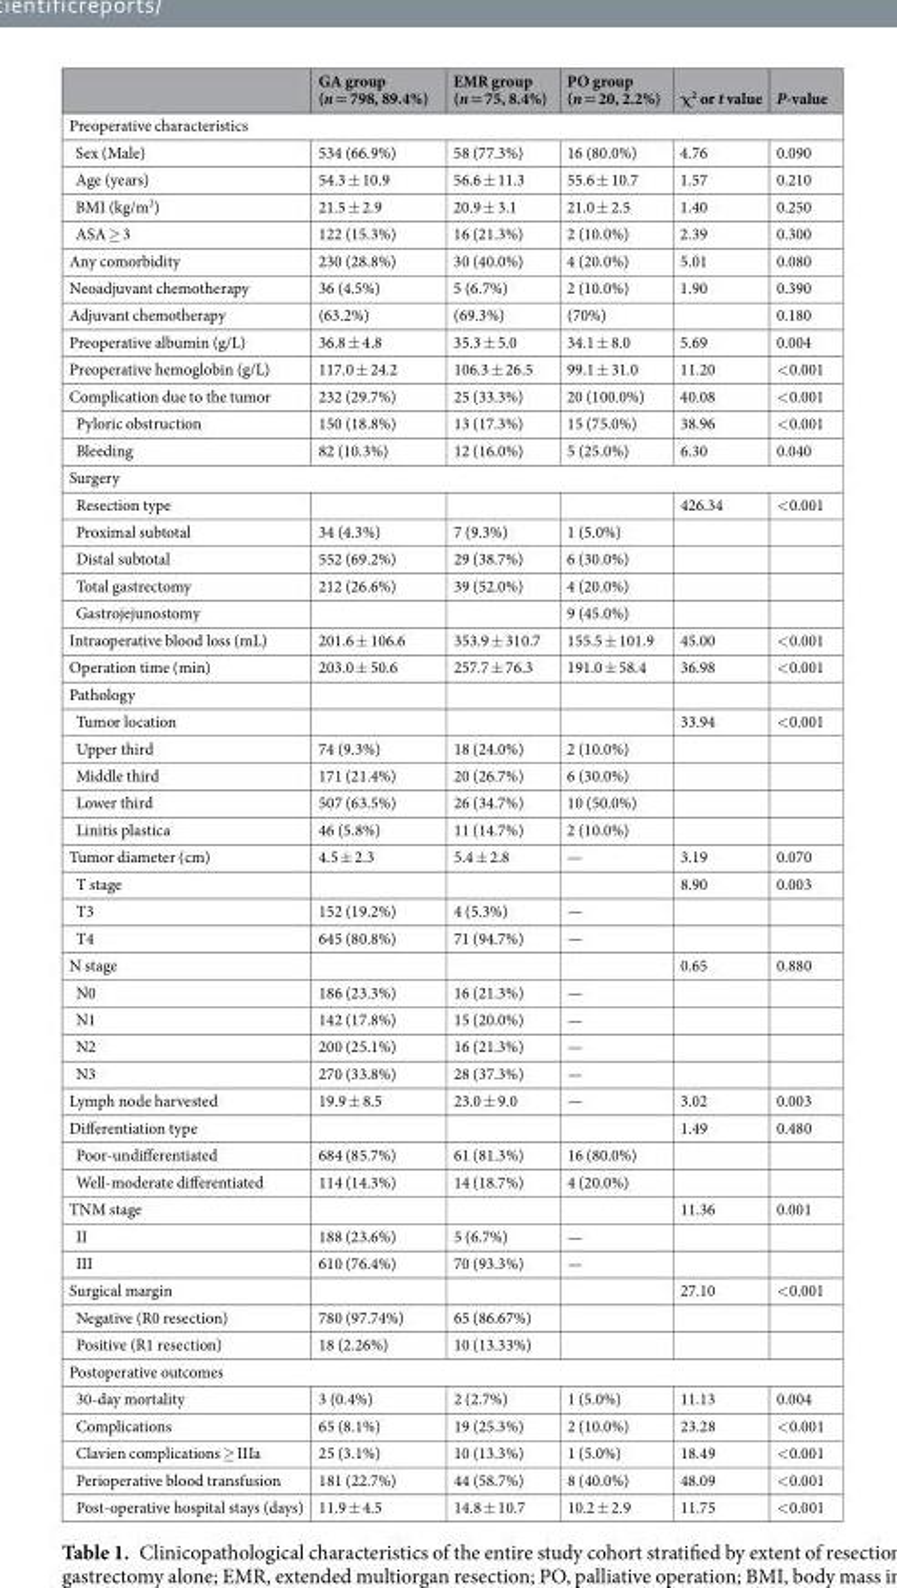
<table><thead><tr><td></td><td>GA group (n = 798, 89.4%)</td><td>EMR group (n = 75, 8.4%)</td><td>PO group (n = 20, 2.2%)</td><td>χ<sup>2</sup> or t value</td><td>P-value</td></tr></thead><tbody><tr><td colspan="6">Preoperative characteristics</td></tr><tr><td>Sex (Male)</td><td>534 (66.9%)</td><td>58 (77.3%)</td><td>16 (80.0%)</td><td>4.76</td><td>0.090</td></tr><tr><td>Age (years)</td><td>54.3 ± 10.9</td><td>56.6 ± 11.3</td><td>55.6 ± 10.7</td><td>1.57</td><td>0.210</td></tr><tr><td>BMI (kg/m<sup>2</sup>)</td><td>21.5 ± 2.9</td><td>20.9 ± 3.1</td><td>21.0 ± 2.5</td><td>1.40</td><td>0.250</td></tr><tr><td>ASA ≥ 3</td><td>122 (15.3%)</td><td>16 (21.3%)</td><td>2 (10.0%)</td><td>2.39</td><td>0.300</td></tr><tr><td>Any comorbidity</td><td>230 (28.8%)</td><td>30 (40.0%)</td><td>4 (20.0%)</td><td>5.01</td><td>0.080</td></tr><tr><td>Neoadjuvant chemotherapy</td><td>36 (4.5%)</td><td>5 (6.7%)</td><td>2 (10.0%)</td><td>1.90</td><td>0.390</td></tr><tr><td>Adjuvant chemotherapy</td><td>(63.2%)</td><td>(69.3%)</td><td>(70%)</td><td></td><td>0.180</td></tr><tr><td>Preoperative albumin (g/L)</td><td>36.8 ± 4.8</td><td>35.3 ± 5.0</td><td>34.1 ± 8.0</td><td>5.69</td><td>0.004</td></tr><tr><td>Preoperative hemoglobin (g/L)</td><td>117.0 ± 24.2</td><td>106.3 ± 26.5</td><td>99.1 ± 31.0</td><td>11.20</td><td>&lt;0.001</td></tr><tr><td>Complication due to the tumor</td><td>232 (29.7%)</td><td>25 (33.3%)</td><td>20 (100.0%)</td><td>40.08</td><td>&lt;0.001</td></tr><tr><td>Pyloric obstruction</td><td>150 (18.8%)</td><td>13 (17.3%)</td><td>15 (75.0%)</td><td>38.96</td><td>&lt;0.001</td></tr><tr><td>Bleeding</td><td>82 (10.3%)</td><td>12 (16.0%)</td><td>5 (25.0%)</td><td>6.30</td><td>0.040</td></tr><tr><td colspan="6">Surgery</td></tr><tr><td>Resection type</td><td></td><td></td><td></td><td>426.34</td><td>&lt;0.001</td></tr><tr><td>Proximal subtotal</td><td>34 (4.3%)</td><td>7 (9.3%)</td><td>1 (5.0%)</td><td></td><td></td></tr><tr><td>Distal subtotal</td><td>552 (69.2%)</td><td>29 (38.7%)</td><td>6 (30.0%)</td><td></td><td></td></tr><tr><td>Total gastrectomy</td><td>212 (26.6%)</td><td>39 (52.0%)</td><td>4 (20.0%)</td><td></td><td></td></tr><tr><td>Gastrojejunostomy</td><td></td><td></td><td>9 (45.0%)</td><td></td><td></td></tr><tr><td>Intraoperative blood loss (mL)</td><td>201.6 ± 106.6</td><td>353.9 ± 310.7</td><td>155.5 ± 101.9</td><td>45.00</td><td>&lt;0.001</td></tr><tr><td>Operation time (min)</td><td>203.0 ± 50.6</td><td>257.7 ± 76.3</td><td>191.0 ± 58.4</td><td>36.98</td><td>&lt;0.001</td></tr><tr><td colspan="6">Pathology</td></tr><tr><td>Tumor location</td><td></td><td></td><td></td><td>33.94</td><td>&lt;0.001</td></tr><tr><td>Upper third</td><td>74 (9.3%)</td><td>18 (24.0%)</td><td>2 (10.0%)</td><td></td><td></td></tr><tr><td>Middle third</td><td>171 (21.4%)</td><td>20 (26.7%)</td><td>6 (30.0%)</td><td></td><td></td></tr><tr><td>Lower third</td><td>507 (63.5%)</td><td>26 (34.7%)</td><td>10 (50.0%)</td><td></td><td></td></tr><tr><td>Linitis plastica</td><td>46 (5.8%)</td><td>11 (14.7%)</td><td>2 (10.0%)</td><td></td><td></td></tr><tr><td>Tumor diameter (cm)</td><td>4.5 ± 2.3</td><td>5.4 ± 2.8</td><td>—</td><td>3.19</td><td>0.070</td></tr><tr><td>T stage</td><td></td><td></td><td></td><td>8.90</td><td>0.003</td></tr><tr><td>T3</td><td>152 (19.2%)</td><td>4 (5.3%)</td><td>—</td><td></td><td></td></tr><tr><td>T4</td><td>645 (80.8%)</td><td>71 (94.7%)</td><td>—</td><td></td><td></td></tr><tr><td>N stage</td><td></td><td></td><td></td><td>0.65</td><td>0.880</td></tr><tr><td>N0</td><td>186 (23.3%)</td><td>16 (21.3%)</td><td>—</td><td></td><td></td></tr><tr><td>N1</td><td>142 (17.8%)</td><td>15 (20.0%)</td><td>—</td><td></td><td></td></tr><tr><td>N2</td><td>200 (25.1%)</td><td>16 (21.3%)</td><td>—</td><td></td><td></td></tr><tr><td>N3</td><td>270 (33.8%)</td><td>28 (37.3%)</td><td>—</td><td></td><td></td></tr><tr><td>Lymph node harvested</td><td>19.9 ± 8.5</td><td>23.0 ± 9.0</td><td>—</td><td>3.02</td><td>0.003</td></tr><tr><td>Differentiation type</td><td></td><td></td><td></td><td>1.49</td><td>0.480</td></tr><tr><td>Poor-undifferentiated</td><td>684 (85.7%)</td><td>61 (81.3%)</td><td>16 (80.0%)</td><td></td><td></td></tr><tr><td>Well-moderate differentiated</td><td>114 (14.3%)</td><td>14 (18.7%)</td><td>4 (20.0%)</td><td></td><td></td></tr><tr><td>TNM stage</td><td></td><td></td><td></td><td>11.36</td><td>0.001</td></tr><tr><td>II</td><td>188 (23.6%)</td><td>5 (6.7%)</td><td>—</td><td></td><td></td></tr><tr><td>III</td><td>610 (76.4%)</td><td>70 (93.3%)</td><td>—</td><td></td><td></td></tr><tr><td>Surgical margin</td><td></td><td></td><td></td><td>27.10</td><td>&lt;0.001</td></tr><tr><td>Negative (R0 resection)</td><td>780 (97.74%)</td><td>65 (86.67%)</td><td></td><td></td><td></td></tr><tr><td>Positive (R1 resection)</td><td>18 (2.26%)</td><td>10 (13.33%)</td><td></td><td></td><td></td></tr><tr><td colspan="6">Postoperative outcomes</td></tr><tr><td>30-day mortality</td><td>3 (0.4%)</td><td>2 (2.7%)</td><td>1 (5.0%)</td><td>11.13</td><td>0.004</td></tr><tr><td>Complications</td><td>65 (8.1%)</td><td>19 (25.3%)</td><td>2 (10.0%)</td><td>23.28</td><td>&lt;0.001</td></tr><tr><td>Clavien complications ≥ IIIa</td><td>25 (3.1%)</td><td>10 (13.3%)</td><td>1 (5.0%)</td><td>18.49</td><td>&lt;0.001</td></tr><tr><td>Perioperative blood transfusion</td><td>181 (22.7%)</td><td>44 (58.7%)</td><td>8 (40.0%)</td><td>48.09</td><td>&lt;0.001</td></tr><tr><td>Post-operative hospital stays (days)</td><td>11.9 ± 4.5</td><td>14.8 ± 10.7</td><td>10.2 ± 2.9</td><td>11.75</td><td>&lt;0.001</td></tr></tbody></table>